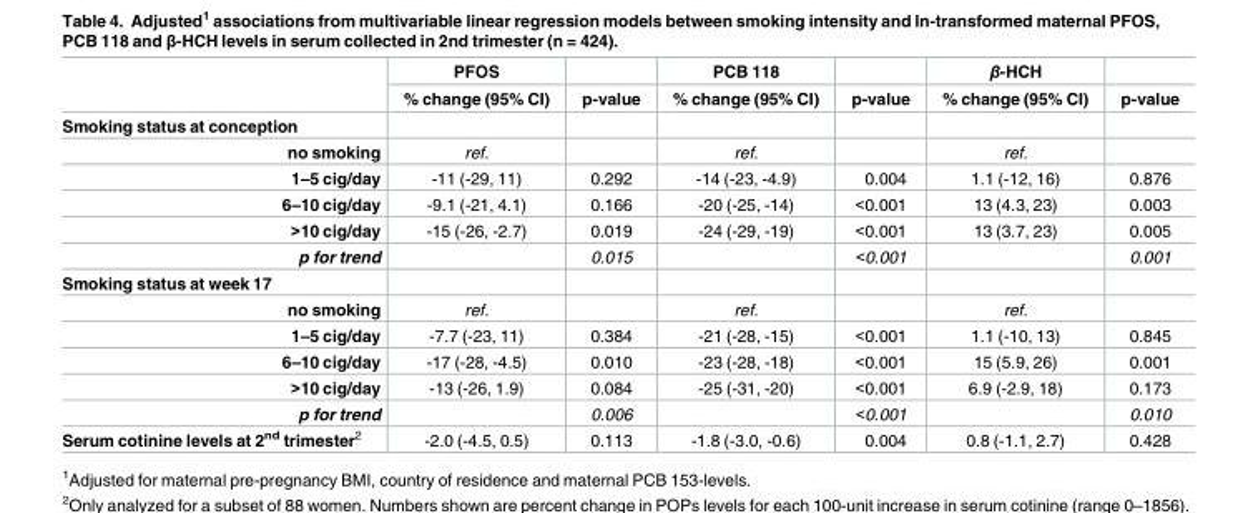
<table><thead><tr><td rowspan="2"></td><td rowspan="2">PFOS % change (95% CI)</td><td rowspan="2">p-value</td><td rowspan="2">PCB 118 % change (95% CI)</td><td rowspan="2">p-value</td><td rowspan="2">β-HCH % change (95% CI)</td><td rowspan="2">p-value</td></tr><tr></tr></thead><tbody><tr><td colspan="7">Smoking status at conception</td></tr><tr><td>no smoking</td><td>ref.</td><td></td><td>ref.</td><td></td><td>ref.</td><td></td></tr><tr><td>1–5 cig/day</td><td>-11 (-29, 11)</td><td>0.292</td><td>-14 (-23, -4.9)</td><td>0.004</td><td>1.1 (-12, 16)</td><td>0.876</td></tr><tr><td>6–10 cig/day</td><td>-9.1 (-21, 4.1)</td><td>0.166</td><td>-20 (-25, -14)</td><td>&lt;0.001</td><td>13 (4.3, 23)</td><td>0.003</td></tr><tr><td>&gt;10 cig/day</td><td>-15 (-26, -2.7)</td><td>0.019</td><td>-24 (-29, -19)</td><td>&lt;0.001</td><td>13 (3.7, 23)</td><td>0.005</td></tr><tr><td>p for trend</td><td></td><td>0.015</td><td></td><td>&lt;0.001</td><td></td><td>0.001</td></tr><tr><td colspan="7">Smoking status at week 17</td></tr><tr><td>no smoking</td><td>ref.</td><td></td><td>ref.</td><td></td><td>ref.</td><td></td></tr><tr><td>1–5 cig/day</td><td>-7.7 (-23, 11)</td><td>0.384</td><td>-21 (-28, -15)</td><td>&lt;0.001</td><td>1.1 (-10, 13)</td><td>0.845</td></tr><tr><td>6–10 cig/day</td><td>-17 (-28, -4.5)</td><td>0.010</td><td>-23 (-28, -18)</td><td>&lt;0.001</td><td>15 (5.9, 26)</td><td>0.001</td></tr><tr><td>&gt;10 cig/day</td><td>-13 (-26, 1.9)</td><td>0.084</td><td>-25 (-31, -20)</td><td>&lt;0.001</td><td>6.9 (-2.9, 18)</td><td>0.173</td></tr><tr><td>p for trend</td><td></td><td>0.006</td><td></td><td>&lt;0.001</td><td></td><td>0.010</td></tr><tr><td>Serum cotinine levels at 2<sup>nd</sup> trimester<sup>2</sup></td><td>-2.0 (-4.5, 0.5)</td><td>0.113</td><td>-1.8 (-3.0, -0.6)</td><td>0.004</td><td>0.8 (-1.1, 2.7)</td><td>0.428</td></tr></tbody></table>